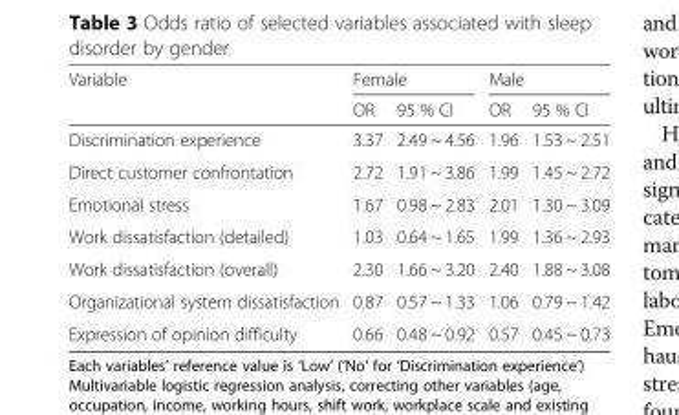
<table><thead><tr><td rowspan="2">Variable</td><td colspan="2">Female</td><td colspan="2">Male</td></tr><tr><td>OR</td><td>95 % CI</td><td>OR</td><td>95 % CI</td></tr></thead><tbody><tr><td>Discrimination experience</td><td>3.37</td><td>2.49 ~ 4.56</td><td>1.96</td><td>1.53 ~ 2.51</td></tr><tr><td>Direct customer confrontation</td><td>2.72</td><td>1.91 ~ 3.86</td><td>1.99</td><td>1.45 ~ 2.72</td></tr><tr><td>Emotional stress</td><td>1.67</td><td>0.98 ~ 2.83</td><td>2.01</td><td>1.30 ~ 3.09</td></tr><tr><td>Work dissatisfaction (detailed)</td><td>1.03</td><td>0.64 ~ 1.65</td><td>1.99</td><td>1.36 ~ 2.93</td></tr><tr><td>Work dissatisfaction (overall)</td><td>2.30</td><td>1.66 ~ 3.20</td><td>2.40</td><td>1.88 ~ 3.08</td></tr><tr><td>Organizational system dissatisfaction</td><td>0.87</td><td>0.57 ~ 1.33</td><td>1.06</td><td>0.79 ~ 1.42</td></tr><tr><td>Expression of opinion difficulty</td><td>0.66</td><td>0.48 ~ 0.92</td><td>0.57</td><td>0.45 ~ 0.73</td></tr></tbody></table>